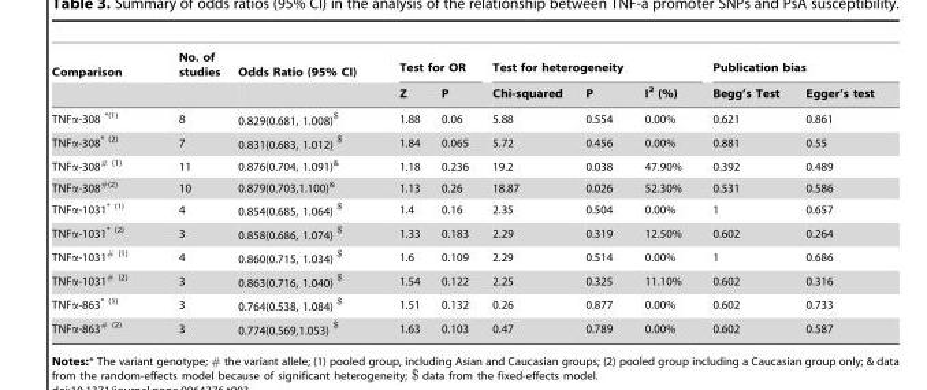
<table><thead><tr><td rowspan="2">Comparison</td><td rowspan="2">No. of studies</td><td rowspan="2">Odds Ratio (95% CI)</td><td colspan="2">Test for OR</td><td colspan="3">Test for heterogeneity</td><td colspan="2">Publication bias</td></tr><tr><td>Z</td><td>P</td><td>Chi-squared</td><td>P</td><td>I<sup>2</sup> (%)</td><td>Begg’s Test</td><td>Egger’s test</td></tr></thead><tbody><tr><td>TNFα-308 <sup>*(1)</sup></td><td>8</td><td>0.829(0.681, 1.008)<sup>$</sup></td><td>1.88</td><td>0.06</td><td>5.88</td><td>0.554</td><td>0.00%</td><td>0.621</td><td>0.861</td></tr><tr><td>TNFα-308<sup>* (2)</sup></td><td>7</td><td>0.831(0.683, 1.012) <sup>$</sup></td><td>1.84</td><td>0.065</td><td>5.72</td><td>0.456</td><td>0.00%</td><td>0.881</td><td>0.55</td></tr><tr><td>TNFα-308<sup># (1)</sup></td><td>11</td><td>0.876(0.704, 1.091)<sup>&amp;</sup></td><td>1.18</td><td>0.236</td><td>19.2</td><td>0.038</td><td>47.90%</td><td>0.392</td><td>0.489</td></tr><tr><td>TNFα-308<sup>#(2)</sup></td><td>10</td><td>0.879(0.703,1.100)<sup>&amp;</sup></td><td>1.13</td><td>0.26</td><td>18.87</td><td>0.026</td><td>52.30%</td><td>0.531</td><td>0.586</td></tr><tr><td>TNFα-1031<sup>* (1)</sup></td><td>4</td><td>0.854(0.685, 1.064) <sup>$</sup></td><td>1.4</td><td>0.16</td><td>2.35</td><td>0.504</td><td>0.00%</td><td>1</td><td>0.657</td></tr><tr><td>TNFα-1031<sup>* (2)</sup></td><td>3</td><td>0.858(0.686, 1.074) <sup>$</sup></td><td>1.33</td><td>0.183</td><td>2.29</td><td>0.319</td><td>12.50%</td><td>0.602</td><td>0.264</td></tr><tr><td>TNFα-1031<sup># (1)</sup></td><td>4</td><td>0.860(0.715, 1.034) <sup>$</sup></td><td>1.6</td><td>0.109</td><td>2.29</td><td>0.514</td><td>0.00%</td><td>1</td><td>0.686</td></tr><tr><td>TNFα-1031<sup># (2)</sup></td><td>3</td><td>0.863(0.716, 1.040) <sup>$</sup></td><td>1.54</td><td>0.122</td><td>2.25</td><td>0.325</td><td>11.10%</td><td>0.602</td><td>0.316</td></tr><tr><td>TNFα-863<sup>* (1)</sup></td><td>3</td><td>0.764(0.538, 1.084) <sup>$</sup></td><td>1.51</td><td>0.132</td><td>0.26</td><td>0.877</td><td>0.00%</td><td>0.602</td><td>0.733</td></tr><tr><td>TNFα-863<sup># (2)</sup></td><td>3</td><td>0.774(0.569,1.053) <sup>$</sup></td><td>1.63</td><td>0.103</td><td>0.47</td><td>0.789</td><td>0.00%</td><td>0.602</td><td>0.587</td></tr></tbody></table>